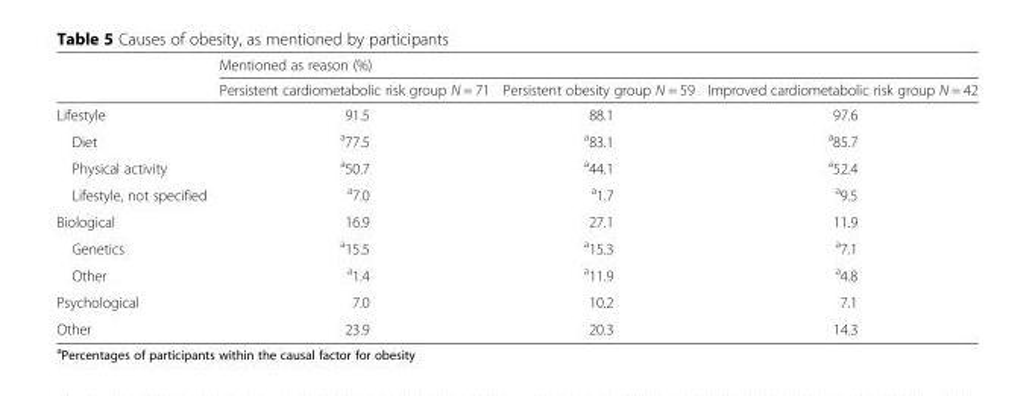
<table><thead><tr><td rowspan="2"></td><td colspan="3">Mentioned as reason (%)</td></tr><tr><td>Persistent cardiometabolic risk group N = 71</td><td>Persistent obesity group N = 59</td><td>Improved cardiometabolic risk group N = 42</td></tr></thead><tbody><tr><td>Lifestyle</td><td>91.5</td><td>88.1</td><td>97.6</td></tr><tr><td>Diet</td><td><sup>a</sup>77.5</td><td><sup>a</sup>83.1</td><td><sup>a</sup>85.7</td></tr><tr><td>Physical activity</td><td><sup>a</sup>50.7</td><td><sup>a</sup>44.1</td><td><sup>a</sup>52.4</td></tr><tr><td>Lifestyle, not specified</td><td><sup>a</sup>7.0</td><td><sup>a</sup>1.7</td><td><sup>a</sup>9.5</td></tr><tr><td>Biological</td><td>16.9</td><td>27.1</td><td>11.9</td></tr><tr><td>Genetics</td><td><sup>a</sup>15.5</td><td><sup>a</sup>15.3</td><td><sup>a</sup>7.1</td></tr><tr><td>Other</td><td><sup>a</sup>1.4</td><td><sup>a</sup>11.9</td><td><sup>a</sup>4.8</td></tr><tr><td>Psychological</td><td>7.0</td><td>10.2</td><td>7.1</td></tr><tr><td>Other</td><td>23.9</td><td>20.3</td><td>14.3</td></tr></tbody></table>